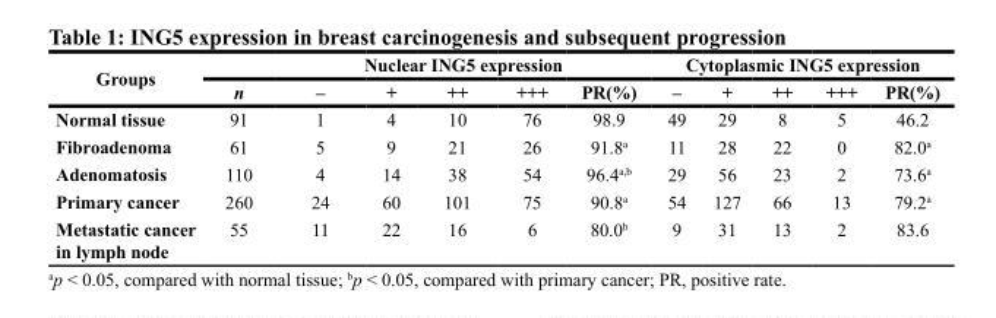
<table><thead><tr><td rowspan="2">Groups</td><td rowspan="2">n</td><td colspan="5">Nuclear ING5 expression</td><td colspan="5">Cytoplasmic ING5 expression</td></tr><tr><td>–</td><td>+</td><td>++</td><td>+++</td><td>PR(%)</td><td>–</td><td>+</td><td>++</td><td>+++</td><td>PR(%)</td></tr></thead><tbody><tr><td>Normal tissue</td><td>91</td><td>1</td><td>4</td><td>10</td><td>76</td><td>98.9</td><td>49</td><td>29</td><td>8</td><td>5</td><td>46.2</td></tr><tr><td>Fibroadenoma</td><td>61</td><td>5</td><td>9</td><td>21</td><td>26</td><td>91.8<sup>a</sup></td><td>11</td><td>28</td><td>22</td><td>0</td><td>82.0<sup>a</sup></td></tr><tr><td>Adenomatosis</td><td>110</td><td>4</td><td>14</td><td>38</td><td>54</td><td>96.4<sup>a,b</sup></td><td>29</td><td>56</td><td>23</td><td>2</td><td>73.6<sup>a</sup></td></tr><tr><td>Primary cancer</td><td>260</td><td>24</td><td>60</td><td>101</td><td>75</td><td>90.8<sup>a</sup></td><td>54</td><td>127</td><td>66</td><td>13</td><td>79.2<sup>a</sup></td></tr><tr><td>Metastatic cancer in lymph node</td><td>55</td><td>11</td><td>22</td><td>16</td><td>6</td><td>80.0<sup>b</sup></td><td>9</td><td>31</td><td>13</td><td>2</td><td>83.6</td></tr></tbody></table>